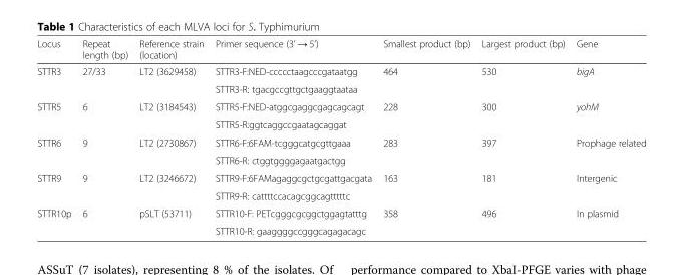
<table><thead><tr><td>Locus</td><td>Repeat length (bp)</td><td>Reference strain (location)</td><td>Primer sequence (3’ → 5’)</td><td>Smallest product (bp)</td><td>Largest product (bp)</td><td>Gene</td></tr></thead><tbody><tr><td rowspan="2">STTR3</td><td rowspan="2">27/33</td><td rowspan="2">LT2 (3629458)</td><td>STTR3-F:NED-ccccctaagcccgataatgg</td><td rowspan="2">464</td><td rowspan="2">530</td><td rowspan="2">bigA</td></tr><tr><td>STTR3-R: tgacgccgttgctgaaggtaataa</td></tr><tr><td rowspan="2">STTR5</td><td rowspan="2">6</td><td rowspan="2">LT2 (3184543)</td><td>STTR5-F:NED-atggcgaggcgagcagcagt</td><td rowspan="2">228</td><td rowspan="2">300</td><td rowspan="2">yohM</td></tr><tr><td>STTR5-R:ggtcaggccgaatagcaggat</td></tr><tr><td rowspan="2">STTR6</td><td rowspan="2">9</td><td rowspan="2">LT2 (2730867)</td><td>STTR6-F:6FAM-tcgggcatgcgttgaaa</td><td rowspan="2">283</td><td rowspan="2">397</td><td rowspan="2">Prophage related</td></tr><tr><td>STTR6-R: ctggtggggagaatgactgg</td></tr><tr><td rowspan="2">STTR9</td><td rowspan="2">9</td><td rowspan="2">LT2 (3246672)</td><td>STTR9-F:6FAMagaggcgctgcgattgacgata</td><td rowspan="2">163</td><td rowspan="2">181</td><td rowspan="2">Intergenic</td></tr><tr><td>STTR9-R: cattttccacagcggcagtttttc</td></tr><tr><td rowspan="2">STTR10p</td><td rowspan="2">6</td><td rowspan="2">pSLT (53711)</td><td>STTR10-F: PETcgggcgcggctggagtatttg</td><td rowspan="2">358</td><td rowspan="2">496</td><td rowspan="2">In plasmid</td></tr><tr><td>STTR10-R: gaaggggccgggcagagacagc</td></tr></tbody></table>